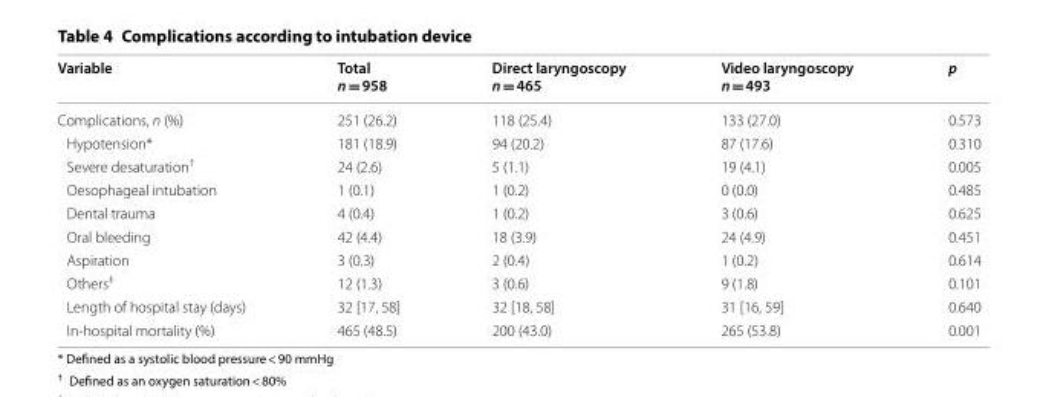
<table><thead><tr><td>Variable</td><td>Total n = 958</td><td>Direct laryngoscopy n = 465</td><td>Video laryngoscopy n = 493</td><td>p</td></tr></thead><tbody><tr><td>Complications, n (%)</td><td>251 (26.2)</td><td>118 (25.4)</td><td>133 (27.0)</td><td>0.573</td></tr><tr><td>Hypotension*</td><td>181 (18.9)</td><td>94 (20.2)</td><td>87 (17.6)</td><td>0.310</td></tr><tr><td>Severe desaturation<sup>†</sup></td><td>24 (2.6)</td><td>5 (1.1)</td><td>19 (4.1)</td><td>0.005</td></tr><tr><td>Oesophageal intubation</td><td>1 (0.1)</td><td>1 (0.2)</td><td>0 (0.0)</td><td>0.485</td></tr><tr><td>Dental trauma</td><td>4 (0.4)</td><td>1 (0.2)</td><td>3 (0.6)</td><td>0.625</td></tr><tr><td>Oral bleeding</td><td>42 (4.4)</td><td>18 (3.9)</td><td>24 (4.9)</td><td>0.451</td></tr><tr><td>Aspiration</td><td>3 (0.3)</td><td>2 (0.4)</td><td>1 (0.2)</td><td>0.614</td></tr><tr><td>Others<sup>‡</sup></td><td>12 (1.3)</td><td>3 (0.6)</td><td>9 (1.8)</td><td>0.101</td></tr><tr><td>Length of hospital stay (days)</td><td>32 [17, 58]</td><td>32 [18, 58]</td><td>31 [16, 59]</td><td>0.640</td></tr><tr><td>In‑hospital mortality (%)</td><td>465 (48.5)</td><td>200 (43.0)</td><td>265 (53.8)</td><td>0.001</td></tr></tbody></table>